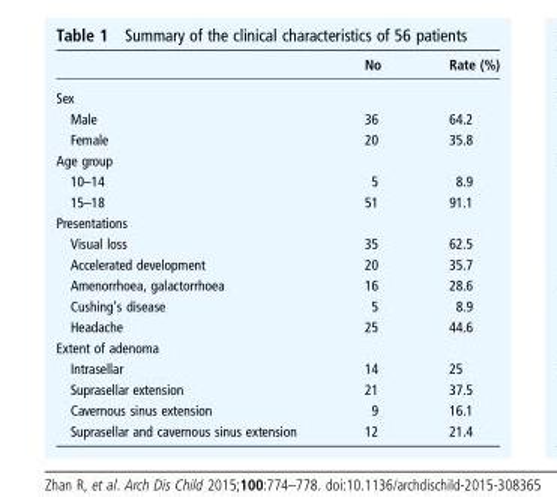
<table><thead><tr><td></td><td>No</td><td>Rate (%)</td></tr></thead><tbody><tr><td colspan="3">Sex</td></tr><tr><td>Male</td><td>36</td><td>64.2</td></tr><tr><td>Female</td><td>20</td><td>35.8</td></tr><tr><td colspan="3">Age group</td></tr><tr><td>10–14</td><td>5</td><td>8.9</td></tr><tr><td>15–18</td><td>51</td><td>91.1</td></tr><tr><td colspan="3">Presentations</td></tr><tr><td>Visual loss</td><td>35</td><td>62.5</td></tr><tr><td>Accelerated development</td><td>20</td><td>35.7</td></tr><tr><td>Amenorrhoea, galactorrhoea</td><td>16</td><td>28.6</td></tr><tr><td>Cushing’s disease</td><td>5</td><td>8.9</td></tr><tr><td>Headache</td><td>25</td><td>44.6</td></tr><tr><td colspan="3">Extent of adenoma</td></tr><tr><td>Intrasellar</td><td>14</td><td>25</td></tr><tr><td>Suprasellar extension</td><td>21</td><td>37.5</td></tr><tr><td>Cavernous sinus extension</td><td>9</td><td>16.1</td></tr><tr><td>Suprasellar and cavernous sinus extension</td><td>12</td><td>21.4</td></tr></tbody></table>